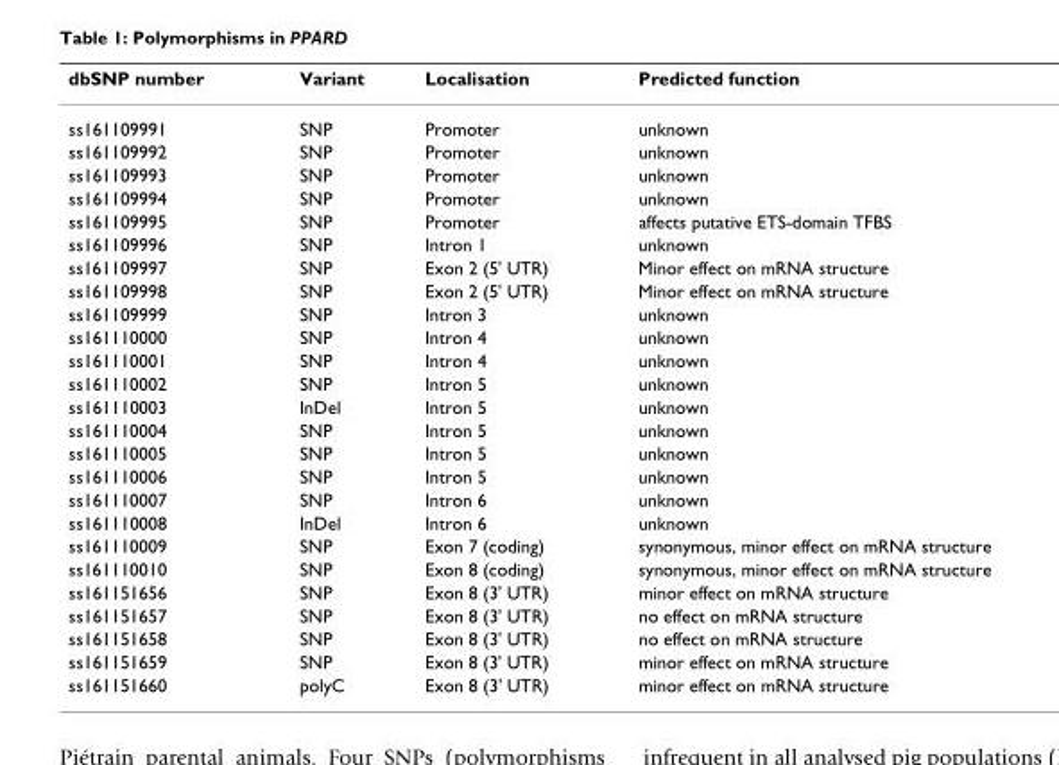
<table><thead><tr><td>dbSNP number</td><td>Variant</td><td>Localisation</td><td>Predicted function</td></tr></thead><tbody><tr><td>ss161109991</td><td>SNP</td><td>Promoter</td><td>unknown</td></tr><tr><td>ss161109992</td><td>SNP</td><td>Promoter</td><td>unknown</td></tr><tr><td>ss161109993</td><td>SNP</td><td>Promoter</td><td>unknown</td></tr><tr><td>ss161109994</td><td>SNP</td><td>Promoter</td><td>unknown</td></tr><tr><td>ss161109995</td><td>SNP</td><td>Promoter</td><td>affects putative ETS-domain TFBS</td></tr><tr><td>ss161109996</td><td>SNP</td><td>Intron 1</td><td>unknown</td></tr><tr><td>ss161109997</td><td>SNP</td><td>Exon 2 (5&#x27; UTR)</td><td>Minor effect on mRNA structure</td></tr><tr><td>ss161109998</td><td>SNP</td><td>Exon 2 (5&#x27; UTR)</td><td>Minor effect on mRNA structure</td></tr><tr><td>ss161109999</td><td>SNP</td><td>Intron 3</td><td>unknown</td></tr><tr><td>ss161110000</td><td>SNP</td><td>Intron 4</td><td>unknown</td></tr><tr><td>ss161110001</td><td>SNP</td><td>Intron 4</td><td>unknown</td></tr><tr><td>ss161110002</td><td>SNP</td><td>Intron 5</td><td>unknown</td></tr><tr><td>ss161110003</td><td>InDel</td><td>Intron 5</td><td>unknown</td></tr><tr><td>ss161110004</td><td>SNP</td><td>Intron 5</td><td>unknown</td></tr><tr><td>ss161110005</td><td>SNP</td><td>Intron 5</td><td>unknown</td></tr><tr><td>ss161110006</td><td>SNP</td><td>Intron 5</td><td>unknown</td></tr><tr><td>ss161110007</td><td>SNP</td><td>Intron 6</td><td>unknown</td></tr><tr><td>ss161110008</td><td>InDel</td><td>Intron 6</td><td>unknown</td></tr><tr><td>ss161110009</td><td>SNP</td><td>Exon 7 (coding)</td><td>synonymous, minor effect on mRNA structure</td></tr><tr><td>ss161110010</td><td>SNP</td><td>Exon 8 (coding)</td><td>synonymous, minor effect on mRNA structure</td></tr><tr><td>ss161151656</td><td>SNP</td><td>Exon 8 (3&#x27; UTR)</td><td>minor effect on mRNA structure</td></tr><tr><td>ss161151657</td><td>SNP</td><td>Exon 8 (3&#x27; UTR)</td><td>no effect on mRNA structure</td></tr><tr><td>ss161151658</td><td>SNP</td><td>Exon 8 (3&#x27; UTR)</td><td>no effect on mRNA structure</td></tr><tr><td>ss161151659</td><td>SNP</td><td>Exon 8 (3&#x27; UTR)</td><td>minor effect on mRNA structure</td></tr><tr><td>ss161151660</td><td>polyC</td><td>Exon 8 (3&#x27; UTR)</td><td>minor effect on mRNA structure</td></tr></tbody></table>